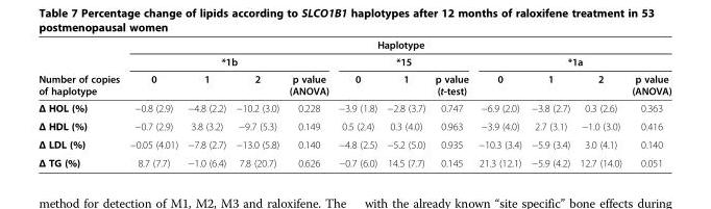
<table><thead><tr><td rowspan="3">Number of copies of haplotype</td><td colspan="11">Haplotype</td></tr><tr><td colspan="4">*1b</td><td colspan="3">*15</td><td colspan="4">*1a</td></tr><tr><td>0</td><td>1</td><td>2</td><td>p value (ANOVA)</td><td>0</td><td>1</td><td>p value (t-test)</td><td>0</td><td>1</td><td>2</td><td>p value (ANOVA)</td></tr></thead><tbody><tr><td>Δ HOL (%)</td><td>−0.8 (2.9)</td><td>−4.8 (2.2)</td><td>−10.2 (3.0)</td><td>0.228</td><td>−3.9 (1.8)</td><td>−2.8 (3.7)</td><td>0.747</td><td>−6.9 (2.0)</td><td>−3.8 (2.7)</td><td>0.3 (2.6)</td><td>0.363</td></tr><tr><td>Δ HDL (%)</td><td>−0.7 (2.9)</td><td>3.8 (3.2)</td><td>−9.7 (5.3)</td><td>0.149</td><td>0.5 (2.4)</td><td>0.3 (4.0)</td><td>0.963</td><td>−3.9 (4.0)</td><td>2.7 (3.1)</td><td>−1.0 (3.0)</td><td>0.416</td></tr><tr><td>Δ LDL (%)</td><td>−0.05 (4.01)</td><td>−7.8 (2.7)</td><td>−13.0 (5.8)</td><td>0.140</td><td>−4.8 (2.5)</td><td>−5.2 (5.0)</td><td>0.935</td><td>−10.3 (3.4)</td><td>−5.9 (3.4)</td><td>3.0 (4.1)</td><td>0.140</td></tr><tr><td>Δ TG (%)</td><td>8.7 (7.7)</td><td>−1.0 (6.4)</td><td>7.8 (20.7)</td><td>0.626</td><td>−0.7 (6.0)</td><td>14.5 (7.7)</td><td>0.145</td><td>21.3 (12.1)</td><td>−5.9 (4.2)</td><td>12.7 (14.0)</td><td>0.051</td></tr></tbody></table>